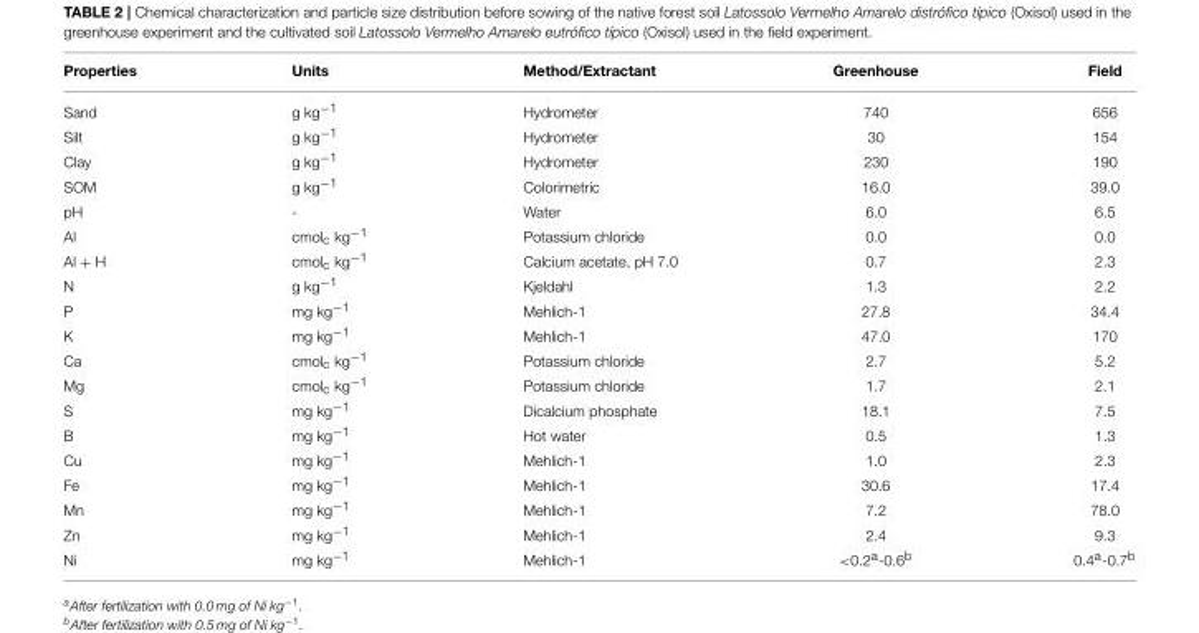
<table><thead><tr><td>Properties</td><td>Units</td><td>Method/Extractant</td><td>Greenhouse</td><td>Field</td></tr></thead><tbody><tr><td>Sand</td><td>g kg<sup>−1</sup></td><td>Hydrometer</td><td>740</td><td>656</td></tr><tr><td>Silt</td><td>g kg<sup>−1</sup></td><td>Hydrometer</td><td>30</td><td>154</td></tr><tr><td>Clay</td><td>g kg<sup>−1</sup></td><td>Hydrometer</td><td>230</td><td>190</td></tr><tr><td>SOM</td><td>g kg<sup>−1</sup></td><td>Colorimetric</td><td>16.0</td><td>39.0</td></tr><tr><td>pH</td><td>-</td><td>Water</td><td>6.0</td><td>6.5</td></tr><tr><td>Al</td><td>cmol<sub>c</sub> kg<sup>−1</sup></td><td>Potassium chloride</td><td>0.0</td><td>0.0</td></tr><tr><td>Al + H</td><td>cmol<sub>c</sub> kg<sup>−1</sup></td><td>Calcium acetate, pH 7.0</td><td>0.7</td><td>2.3</td></tr><tr><td>N</td><td>g kg<sup>−1</sup></td><td>Kjeldahl</td><td>1.3</td><td>2.2</td></tr><tr><td>P</td><td>mg kg<sup>−1</sup></td><td>Mehlich-1</td><td>27.8</td><td>34.4</td></tr><tr><td>K</td><td>mg kg<sup>−1</sup></td><td>Mehlich-1</td><td>47.0</td><td>170</td></tr><tr><td>Ca</td><td>cmol<sub>c</sub> kg<sup>−1</sup></td><td>Potassium chloride</td><td>2.7</td><td>5.2</td></tr><tr><td>Mg</td><td>cmol<sub>c</sub> kg<sup>−1</sup></td><td>Potassium chloride</td><td>1.7</td><td>2.1</td></tr><tr><td>S</td><td>mg kg<sup>−1</sup></td><td>Dicalcium phosphate</td><td>18.1</td><td>7.5</td></tr><tr><td>B</td><td>mg kg<sup>−1</sup></td><td>Hot water</td><td>0.5</td><td>1.3</td></tr><tr><td>Cu</td><td>mg kg<sup>−1</sup></td><td>Mehlich-1</td><td>1.0</td><td>2.3</td></tr><tr><td>Fe</td><td>mg kg<sup>−1</sup></td><td>Mehlich-1</td><td>30.6</td><td>17.4</td></tr><tr><td>Mn</td><td>mg kg<sup>−1</sup></td><td>Mehlich-1</td><td>7.2</td><td>78.0</td></tr><tr><td>Zn</td><td>mg kg<sup>−1</sup></td><td>Mehlich-1</td><td>2.4</td><td>9.3</td></tr><tr><td>Ni</td><td>mg kg<sup>−1</sup></td><td>Mehlich-1</td><td>&lt;0.2<sup>a</sup>-0.6<sup>b</sup></td><td>0.4<sup>a</sup>-0.7<sup>b</sup></td></tr></tbody></table>